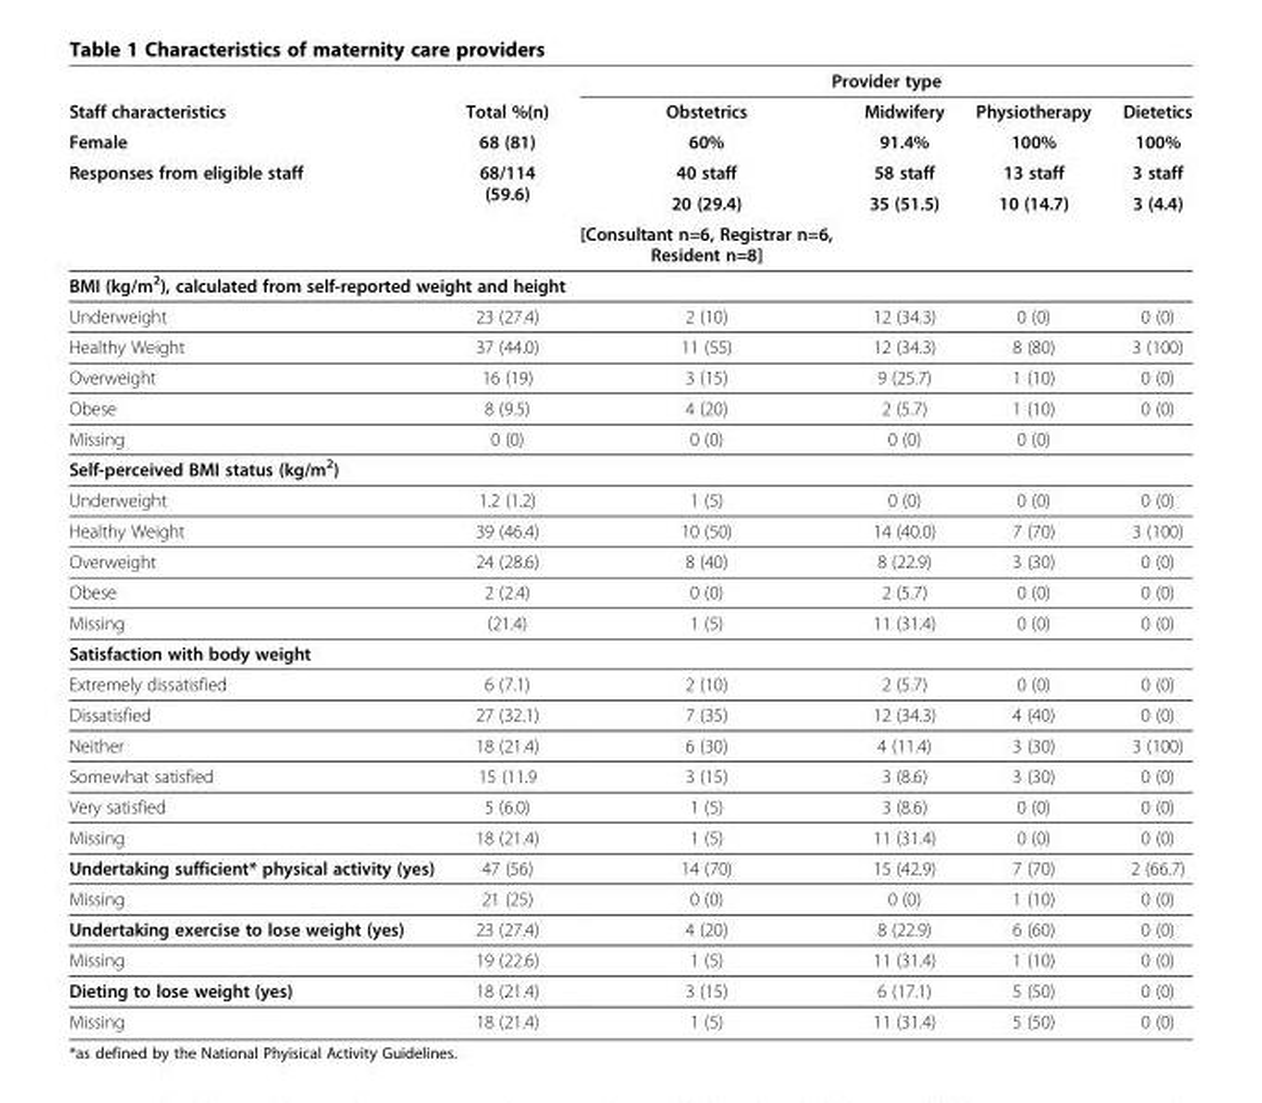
<table><thead><tr><td rowspan="6">Staff characteristics Female Responses from eligible staff</td><td rowspan="6">Total %(n) 68 (81) 68/114 (59.6)</td><td colspan="4">Provider type</td></tr><tr><td rowspan="5">Obstetrics 60% 40 staff 20 (29.4) [Consultant n=6, Registrar n=6, Resident n=8]</td><td rowspan="5">Midwifery 91.4% 58 staff 35 (51.5)</td><td rowspan="5">Physiotherapy 100% 13 staff 10 (14.7)</td><td rowspan="5">Dietetics 100% 3 staff 3 (4.4)</td></tr><tr></tr><tr></tr><tr></tr><tr></tr></thead><tbody><tr><td colspan="6">BMI (kg/m<sup>2</sup>), calculated from self-reported weight and height</td></tr><tr><td>Underweight</td><td>23 (27.4)</td><td>2 (10)</td><td>12 (34.3)</td><td>0 (0)</td><td>0 (0)</td></tr><tr><td>Healthy Weight</td><td>37 (44.0)</td><td>11 (55)</td><td>12 (34.3)</td><td>8 (80)</td><td>3 (100)</td></tr><tr><td>Overweight</td><td>16 (19)</td><td>3 (15)</td><td>9 (25.7)</td><td>1 (10)</td><td>0 (0)</td></tr><tr><td>Obese</td><td>8 (9.5)</td><td>4 (20)</td><td>2 (5.7)</td><td>1 (10)</td><td>0 (0)</td></tr><tr><td>Missing</td><td>0 (0)</td><td>0 (0)</td><td>0 (0)</td><td>0 (0)</td><td></td></tr><tr><td colspan="6">Self-perceived BMI status (kg/m<sup>2</sup>)</td></tr><tr><td>Underweight</td><td>1.2 (1.2)</td><td>1 (5)</td><td>0 (0)</td><td>0 (0)</td><td>0 (0)</td></tr><tr><td>Healthy Weight</td><td>39 (46.4)</td><td>10 (50)</td><td>14 (40.0)</td><td>7 (70)</td><td>3 (100)</td></tr><tr><td>Overweight</td><td>24 (28.6)</td><td>8 (40)</td><td>8 (22.9)</td><td>3 (30)</td><td>0 (0)</td></tr><tr><td>Obese</td><td>2 (2.4)</td><td>0 (0)</td><td>2 (5.7)</td><td>0 (0)</td><td>0 (0)</td></tr><tr><td>Missing</td><td>(21.4)</td><td>1 (5)</td><td>11 (31.4)</td><td>0 (0)</td><td>0 (0)</td></tr><tr><td colspan="6">Satisfaction with body weight</td></tr><tr><td>Extremely dissatisfied</td><td>6 (7.1)</td><td>2 (10)</td><td>2 (5.7)</td><td>0 (0)</td><td>0 (0)</td></tr><tr><td>Dissatisfied</td><td>27 (32.1)</td><td>7 (35)</td><td>12 (34.3)</td><td>4 (40)</td><td>0 (0)</td></tr><tr><td>Neither</td><td>18 (21.4)</td><td>6 (30)</td><td>4 (11.4)</td><td>3 (30)</td><td>3 (100)</td></tr><tr><td>Somewhat satisfied</td><td>15 (11.9</td><td>3 (15)</td><td>3 (8.6)</td><td>3 (30)</td><td>0 (0)</td></tr><tr><td>Very satisfied</td><td>5 (6.0)</td><td>1 (5)</td><td>3 (8.6)</td><td>0 (0)</td><td>0 (0)</td></tr><tr><td>Missing</td><td>18 (21.4)</td><td>1 (5)</td><td>11 (31.4)</td><td>0 (0)</td><td>0 (0)</td></tr><tr><td>Undertaking sufficient* physical activity (yes)</td><td>47 (56)</td><td>14 (70)</td><td>15 (42.9)</td><td>7 (70)</td><td>2 (66.7)</td></tr><tr><td>Missing</td><td>21 (25)</td><td>0 (0)</td><td>0 (0)</td><td>1 (10)</td><td>0 (0)</td></tr><tr><td>Undertaking exercise to lose weight (yes)</td><td>23 (27.4)</td><td>4 (20)</td><td>8 (22.9)</td><td>6 (60)</td><td>0 (0)</td></tr><tr><td>Missing</td><td>19 (22.6)</td><td>1 (5)</td><td>11 (31.4)</td><td>1 (10)</td><td>0 (0)</td></tr><tr><td>Dieting to lose weight (yes)</td><td>18 (21.4)</td><td>3 (15)</td><td>6 (17.1)</td><td>5 (50)</td><td>0 (0)</td></tr><tr><td>Missing</td><td>18 (21.4)</td><td>1 (5)</td><td>11 (31.4)</td><td>5 (50)</td><td>0 (0)</td></tr></tbody></table>